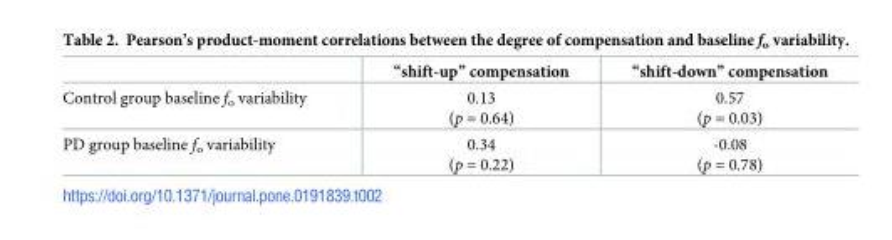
<table><thead><tr><td></td><td>“shift-up” compensation</td><td>“shift-down” compensation</td></tr></thead><tbody><tr><td>Control group baseline f<sub>o</sub> variability</td><td>0.13 (p = 0.64)</td><td>0.57 (p = 0.03)</td></tr><tr><td>PD group baseline f<sub>o</sub> variability</td><td>0.34 (p = 0.22)</td><td>-0.08 (p = 0.78)</td></tr></tbody></table>